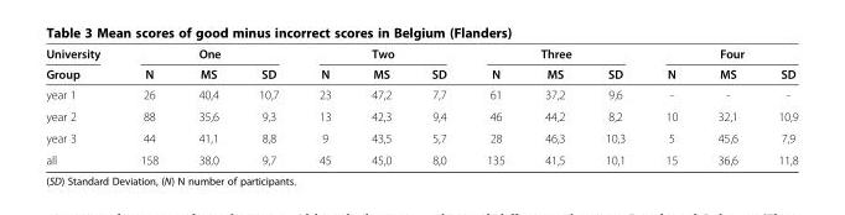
<table><thead><tr><td rowspan="2">University Group</td><td rowspan="2">N</td><td rowspan="2">One MS</td><td rowspan="2">SD</td><td rowspan="2">N</td><td rowspan="2">Two MS</td><td rowspan="2">SD</td><td rowspan="2">N</td><td rowspan="2">Three MS</td><td rowspan="2">SD</td><td rowspan="2">N</td><td rowspan="2">Four MS</td><td rowspan="2">SD</td></tr><tr></tr></thead><tbody><tr><td>year 1</td><td>26</td><td>40,4</td><td>10,7</td><td>23</td><td>47,2</td><td>7,7</td><td>61</td><td>37,2</td><td>9,6</td><td>-</td><td>-</td><td>-</td></tr><tr><td>year 2</td><td>88</td><td>35,6</td><td>9,3</td><td>13</td><td>42,3</td><td>9,4</td><td>46</td><td>44,2</td><td>8,2</td><td>10</td><td>32,1</td><td>10,9</td></tr><tr><td>year 3</td><td>44</td><td>41,1</td><td>8,8</td><td>9</td><td>43,5</td><td>5,7</td><td>28</td><td>46,3</td><td>10,3</td><td>5</td><td>45,6</td><td>7,9</td></tr><tr><td>all</td><td>158</td><td>38,0</td><td>9,7</td><td>45</td><td>45,0</td><td>8,0</td><td>135</td><td>41,5</td><td>10,1</td><td>15</td><td>36,6</td><td>11,8</td></tr></tbody></table>